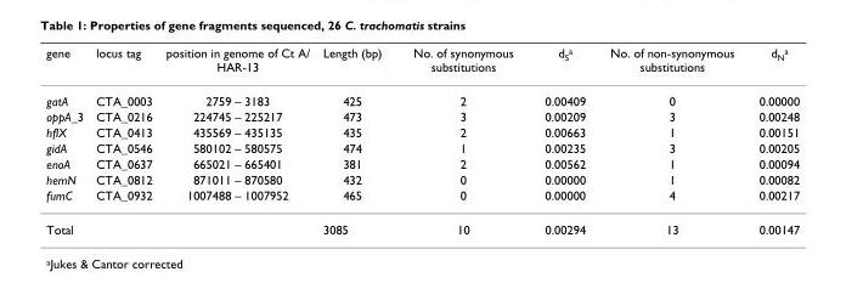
<table><thead><tr><td>gene</td><td>locus tag</td><td>position in genome of Ct A/ HAR-13</td><td>Length (bp)</td><td>No. of synonymous substitutions</td><td>d<sub>S</sub><sup>a</sup></td><td>No. of non-synonymous substitutions</td><td>d<sub>N</sub><sup>a</sup></td></tr></thead><tbody><tr><td>gatA</td><td>CTA_0003</td><td>2759 – 3183</td><td>425</td><td>2</td><td>0.00409</td><td>0</td><td>0.00000</td></tr><tr><td>oppA_3</td><td>CTA_0216</td><td>224745 – 225217</td><td>473</td><td>3</td><td>0.00209</td><td>3</td><td>0.00248</td></tr><tr><td>hflX</td><td>CTA_0413</td><td>435569 – 435135</td><td>435</td><td>2</td><td>0.00663</td><td>1</td><td>0.00151</td></tr><tr><td>gidA</td><td>CTA_0546</td><td>580102 – 580575</td><td>474</td><td>1</td><td>0.00235</td><td>3</td><td>0.00205</td></tr><tr><td>enoA</td><td>CTA_0637</td><td>665021 – 665401</td><td>381</td><td>2</td><td>0.00562</td><td>1</td><td>0.00094</td></tr><tr><td>hemN</td><td>CTA_0812</td><td>871011 – 870580</td><td>432</td><td>0</td><td>0.00000</td><td>1</td><td>0.00082</td></tr><tr><td>fumC</td><td>CTA_0932</td><td>1007488 – 1007952</td><td>465</td><td>0</td><td>0.00000</td><td>4</td><td>0.00217</td></tr><tr><td>Total</td><td></td><td></td><td>3085</td><td>10</td><td>0.00294</td><td>13</td><td>0.00147</td></tr></tbody></table>